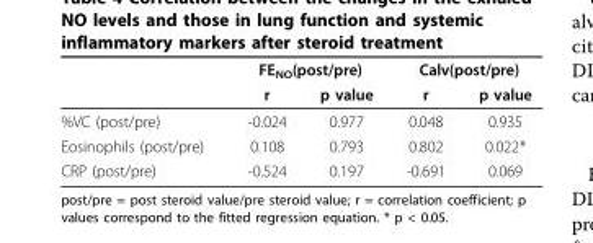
<table><thead><tr><td rowspan="2"></td><td colspan="2">FE<sub>NO</sub>(post/pre)</td><td colspan="2">Calv(post/pre)</td></tr><tr><td>r</td><td>p value</td><td>r</td><td>p value</td></tr></thead><tbody><tr><td>%VC (post/pre)</td><td>-0.024</td><td>0.977</td><td>0.048</td><td>0.935</td></tr><tr><td>Eosinophils (post/pre)</td><td>0.108</td><td>0.793</td><td>0.802</td><td>0.022*</td></tr><tr><td>CRP (post/pre)</td><td>-0.524</td><td>0.197</td><td>-0.691</td><td>0.069</td></tr></tbody></table>